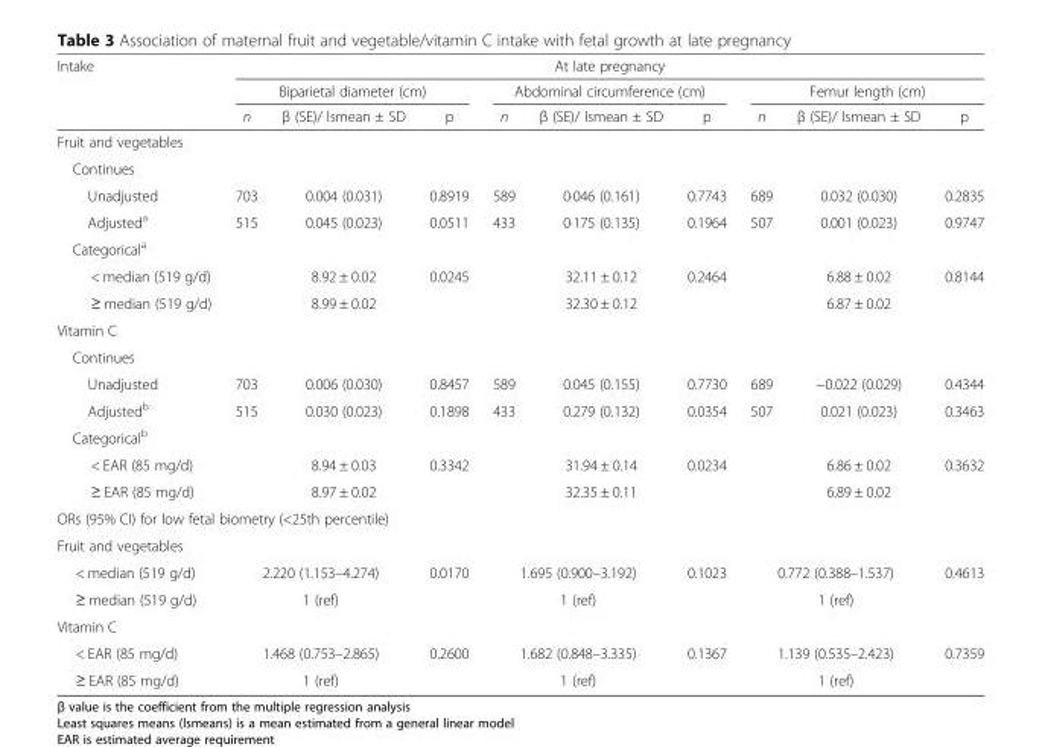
<table><thead><tr><td rowspan="3">Intake</td><td colspan="9">At late pregnancy</td></tr><tr><td colspan="3">Biparietal diameter (cm)</td><td colspan="3">Abdominal circumference (cm)</td><td colspan="3">Femur length (cm)</td></tr><tr><td>n</td><td>β (SE)/ lsmean ± SD</td><td>p</td><td>n</td><td>β (SE)/ lsmean ± SD</td><td>p</td><td>n</td><td>β (SE)/ lsmean ± SD</td><td>p</td></tr></thead><tbody><tr><td colspan="10">Fruit and vegetables</td></tr><tr><td colspan="10">Continues</td></tr><tr><td>Unadjusted</td><td>703</td><td>0.004 (0.031)</td><td>0.8919</td><td>589</td><td>0·046 (0.161)</td><td>0.7743</td><td>689</td><td>0.032 (0.030)</td><td>0.2835</td></tr><tr><td>Adjusted<sup>a</sup></td><td>515</td><td>0.045 (0.023)</td><td>0.0511</td><td>433</td><td>0·175 (0.135)</td><td>0.1964</td><td>507</td><td>0.001 (0.023)</td><td>0.9747</td></tr><tr><td colspan="10">Categorical<sup>a</sup></td></tr><tr><td>&lt; median (519 g/d)</td><td></td><td>8.92 ± 0.02</td><td>0.0245</td><td></td><td>32.11 ± 0.12</td><td>0.2464</td><td></td><td>6.88 ± 0.02</td><td>0.8144</td></tr><tr><td>≥ median (519 g/d)</td><td></td><td>8.99 ± 0.02</td><td></td><td></td><td>32.30 ± 0.12</td><td></td><td></td><td>6.87 ± 0.02</td><td></td></tr><tr><td colspan="10">Vitamin C</td></tr><tr><td colspan="10">Continues</td></tr><tr><td>Unadjusted</td><td>703</td><td>0.006 (0.030)</td><td>0.8457</td><td>589</td><td>0.045 (0.155)</td><td>0.7730</td><td>689</td><td>−0.022 (0.029)</td><td>0.4344</td></tr><tr><td>Adjusted<sup>b</sup></td><td>515</td><td>0.030 (0.023)</td><td>0.1898</td><td>433</td><td>0.279 (0.132)</td><td>0.0354</td><td>507</td><td>0.021 (0.023)</td><td>0.3463</td></tr><tr><td colspan="10">Categorical<sup>b</sup></td></tr><tr><td>&lt; EAR (85 mg/d)</td><td></td><td>8.94 ± 0.03</td><td>0.3342</td><td></td><td>31.94 ± 0.14</td><td>0.0234</td><td></td><td>6.86 ± 0.02</td><td>0.3632</td></tr><tr><td>≥ EAR (85 mg/d)</td><td></td><td>8.97 ± 0.02</td><td></td><td></td><td>32.35 ± 0.11</td><td></td><td></td><td>6.89 ± 0.02</td><td></td></tr><tr><td colspan="10">ORs (95% CI) for low fetal biometry (&lt;25th percentile)</td></tr><tr><td colspan="10">Fruit and vegetables</td></tr><tr><td>&lt; median (519 g/d)</td><td colspan="2">2.220 (1.153–4.274)</td><td>0.0170</td><td colspan="2">1.695 (0.900–3.192)</td><td>0.1023</td><td colspan="2">0.772 (0.388–1.537)</td><td>0.4613</td></tr><tr><td>≥ median (519 g/d)</td><td colspan="2">1 (ref)</td><td></td><td colspan="2">1 (ref)</td><td></td><td colspan="2">1 (ref)</td><td></td></tr><tr><td colspan="10">Vitamin C</td></tr><tr><td>&lt; EAR (85 mg/d)</td><td colspan="2">1.468 (0.753–2.865)</td><td>0.2600</td><td colspan="2">1.682 (0.848–3.335)</td><td>0.1367</td><td colspan="2">1.139 (0.535–2.423)</td><td>0.7359</td></tr><tr><td>≥ EAR (85 mg/d)</td><td colspan="2">1 (ref)</td><td></td><td colspan="2">1 (ref)</td><td></td><td colspan="2">1 (ref)</td><td></td></tr></tbody></table>